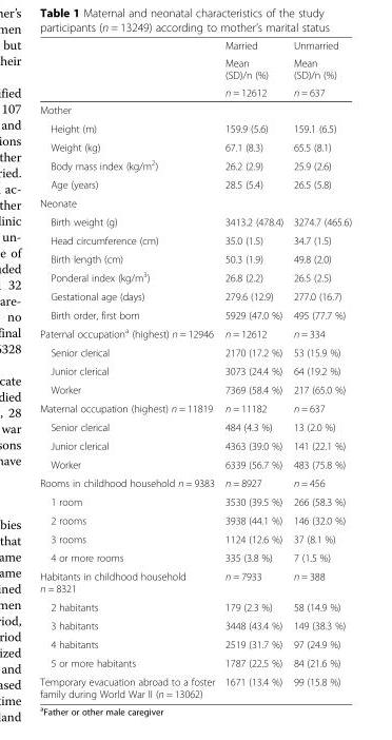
<table><thead><tr><td rowspan="3"></td><td rowspan="3">Married Mean (SD)/n (%) n = 12612</td><td rowspan="3">Unmarried Mean (SD)/n (%) n = 637</td></tr><tr></tr><tr></tr></thead><tbody><tr><td colspan="3">Mother</td></tr><tr><td>Height (m)</td><td>159.9 (5.6)</td><td>159.1 (6.5)</td></tr><tr><td>Weight (kg)</td><td>67.1 (8.3)</td><td>65.5 (8.1)</td></tr><tr><td>Body mass index (kg/m<sup>2</sup>)</td><td>26.2 (2.9)</td><td>25.9 (2.6)</td></tr><tr><td>Age (years)</td><td>28.5 (5.4)</td><td>26.5 (5.8)</td></tr><tr><td colspan="3">Neonate</td></tr><tr><td>Birth weight (g)</td><td>3413.2 (478.4)</td><td>3274.7 (465.6)</td></tr><tr><td>Head circumference (cm)</td><td>35.0 (1.5)</td><td>34.7 (1.5)</td></tr><tr><td>Birth length (cm)</td><td>50.3 (1.9)</td><td>49.8 (2.0)</td></tr><tr><td>Ponderal index (kg/m<sup>3</sup>)</td><td>26.8 (2.2)</td><td>26.5 (2.5)</td></tr><tr><td>Gestational age (days)</td><td>279.6 (12.9)</td><td>277.0 (16.7)</td></tr><tr><td>Birth order, first born</td><td>5929 (47.0 %)</td><td>495 (77.7 %)</td></tr><tr><td>Paternal occupation<sup>a</sup> (highest) n = 12946</td><td>n = 12612</td><td>n = 334</td></tr><tr><td>Senior clerical</td><td>2170 (17.2 %)</td><td>53 (15.9 %)</td></tr><tr><td>Junior clerical</td><td>3073 (24.4 %)</td><td>64 (19.2 %)</td></tr><tr><td>Worker</td><td>7369 (58.4 %)</td><td>217 (65.0 %)</td></tr><tr><td>Maternal occupation (highest) n = 11819</td><td>n = 11182</td><td>n = 637</td></tr><tr><td>Senior clerical</td><td>484 (4.3 %)</td><td>13 (2.0 %)</td></tr><tr><td>Junior clerical</td><td>4363 (39.0 %)</td><td>141 (22.1 %)</td></tr><tr><td>Worker</td><td>6339 (56.7 %)</td><td>483 (75.8 %)</td></tr><tr><td>Rooms in childhood household n = 9383</td><td>n = 8927</td><td>n = 456</td></tr><tr><td>1 room</td><td>3530 (39.5 %)</td><td>266 (58.3 %)</td></tr><tr><td>2 rooms</td><td>3938 (44.1 %)</td><td>146 (32.0 %)</td></tr><tr><td>3 rooms</td><td>1124 (12.6 %)</td><td>37 (8.1 %)</td></tr><tr><td>4 or more rooms</td><td>335 (3.8 %)</td><td>7 (1.5 %)</td></tr><tr><td>Habitants in childhood household n = 8321</td><td>n = 7933</td><td>n = 388</td></tr><tr><td>2 habitants</td><td>179 (2.3 %)</td><td>58 (14.9 %)</td></tr><tr><td>3 habitants</td><td>3448 (43.4 %)</td><td>149 (38.3 %)</td></tr><tr><td>4 habitants</td><td>2519 (31.7 %)</td><td>97 (24.9 %)</td></tr><tr><td>5 or more habitants</td><td>1787 (22.5 %)</td><td>84 (21.6 %)</td></tr><tr><td>Temporary evacuation abroad to a foster family during World War II (n = 13062)</td><td>1671 (13.4 %)</td><td>99 (15.8 %)</td></tr></tbody></table>